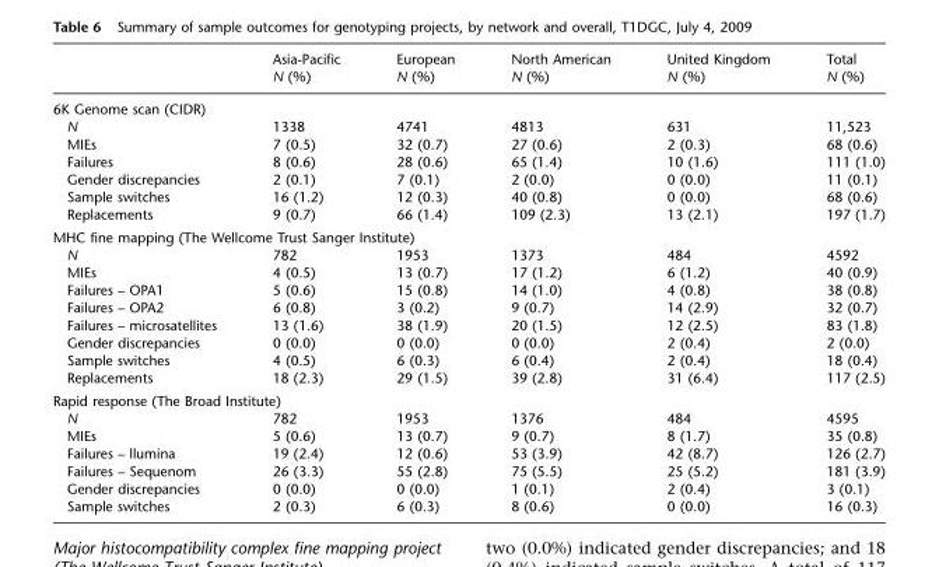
<table><thead><tr><td></td><td>Asia-Pacific N (%)</td><td>European N (%)</td><td>North American N (%)</td><td>United Kingdom N (%)</td><td>Total N (%)</td></tr></thead><tbody><tr><td colspan="6">6K Genome scan (CIDR)</td></tr><tr><td>N</td><td>1338</td><td>4741</td><td>4813</td><td>631</td><td>11,523</td></tr><tr><td>MIEs</td><td>7 (0.5)</td><td>32 (0.7)</td><td>27 (0.6)</td><td>2 (0.3)</td><td>68 (0.6)</td></tr><tr><td>Failures</td><td>8 (0.6)</td><td>28 (0.6)</td><td>65 (1.4)</td><td>10 (1.6)</td><td>111 (1.0)</td></tr><tr><td>Gender discrepancies</td><td>2 (0.1)</td><td>7 (0.1)</td><td>2 (0.0)</td><td>0 (0.0)</td><td>11 (0.1)</td></tr><tr><td>Sample switches</td><td>16 (1.2)</td><td>12 (0.3)</td><td>40 (0.8)</td><td>0 (0.0)</td><td>68 (0.6)</td></tr><tr><td>Replacements</td><td>9 (0.7)</td><td>66 (1.4)</td><td>109 (2.3)</td><td>13 (2.1)</td><td>197 (1.7)</td></tr><tr><td colspan="6">MHC fine mapping (The Wellcome Trust Sanger Institute)</td></tr><tr><td>N</td><td>782</td><td>1953</td><td>1373</td><td>484</td><td>4592</td></tr><tr><td>MIEs</td><td>4 (0.5)</td><td>13 (0.7)</td><td>17 (1.2)</td><td>6 (1.2)</td><td>40 (0.9)</td></tr><tr><td>Failures – OPA1</td><td>5 (0.6)</td><td>15 (0.8)</td><td>14 (1.0)</td><td>4 (0.8)</td><td>38 (0.8)</td></tr><tr><td>Failures – OPA2</td><td>6 (0.8)</td><td>3 (0.2)</td><td>9 (0.7)</td><td>14 (2.9)</td><td>32 (0.7)</td></tr><tr><td>Failures – microsatellites</td><td>13 (1.6)</td><td>38 (1.9)</td><td>20 (1.5)</td><td>12 (2.5)</td><td>83 (1.8)</td></tr><tr><td>Gender discrepancies</td><td>0 (0.0)</td><td>0 (0.0)</td><td>0 (0.0)</td><td>2 (0.4)</td><td>2 (0.0)</td></tr><tr><td>Sample switches</td><td>4 (0.5)</td><td>6 (0.3)</td><td>6 (0.4)</td><td>2 (0.4)</td><td>18 (0.4)</td></tr><tr><td>Replacements</td><td>18 (2.3)</td><td>29 (1.5)</td><td>39 (2.8)</td><td>31 (6.4)</td><td>117 (2.5)</td></tr><tr><td colspan="6">Rapid response (The Broad Institute)</td></tr><tr><td>N</td><td>782</td><td>1953</td><td>1376</td><td>484</td><td>4595</td></tr><tr><td>MIEs</td><td>5 (0.6)</td><td>13 (0.7)</td><td>9 (0.7)</td><td>8 (1.7)</td><td>35 (0.8)</td></tr><tr><td>Failures – llumina</td><td>19 (2.4)</td><td>12 (0.6)</td><td>53 (3.9)</td><td>42 (8.7)</td><td>126 (2.7)</td></tr><tr><td>Failures – Sequenom</td><td>26 (3.3)</td><td>55 (2.8)</td><td>75 (5.5)</td><td>25 (5.2)</td><td>181 (3.9)</td></tr><tr><td>Gender discrepancies</td><td>0 (0.0)</td><td>0 (0.0)</td><td>1 (0.1)</td><td>2 (0.4)</td><td>3 (0.1)</td></tr><tr><td>Sample switches</td><td>2 (0.3)</td><td>6 (0.3)</td><td>8 (0.6)</td><td>0 (0.0)</td><td>16 (0.3)</td></tr></tbody></table>